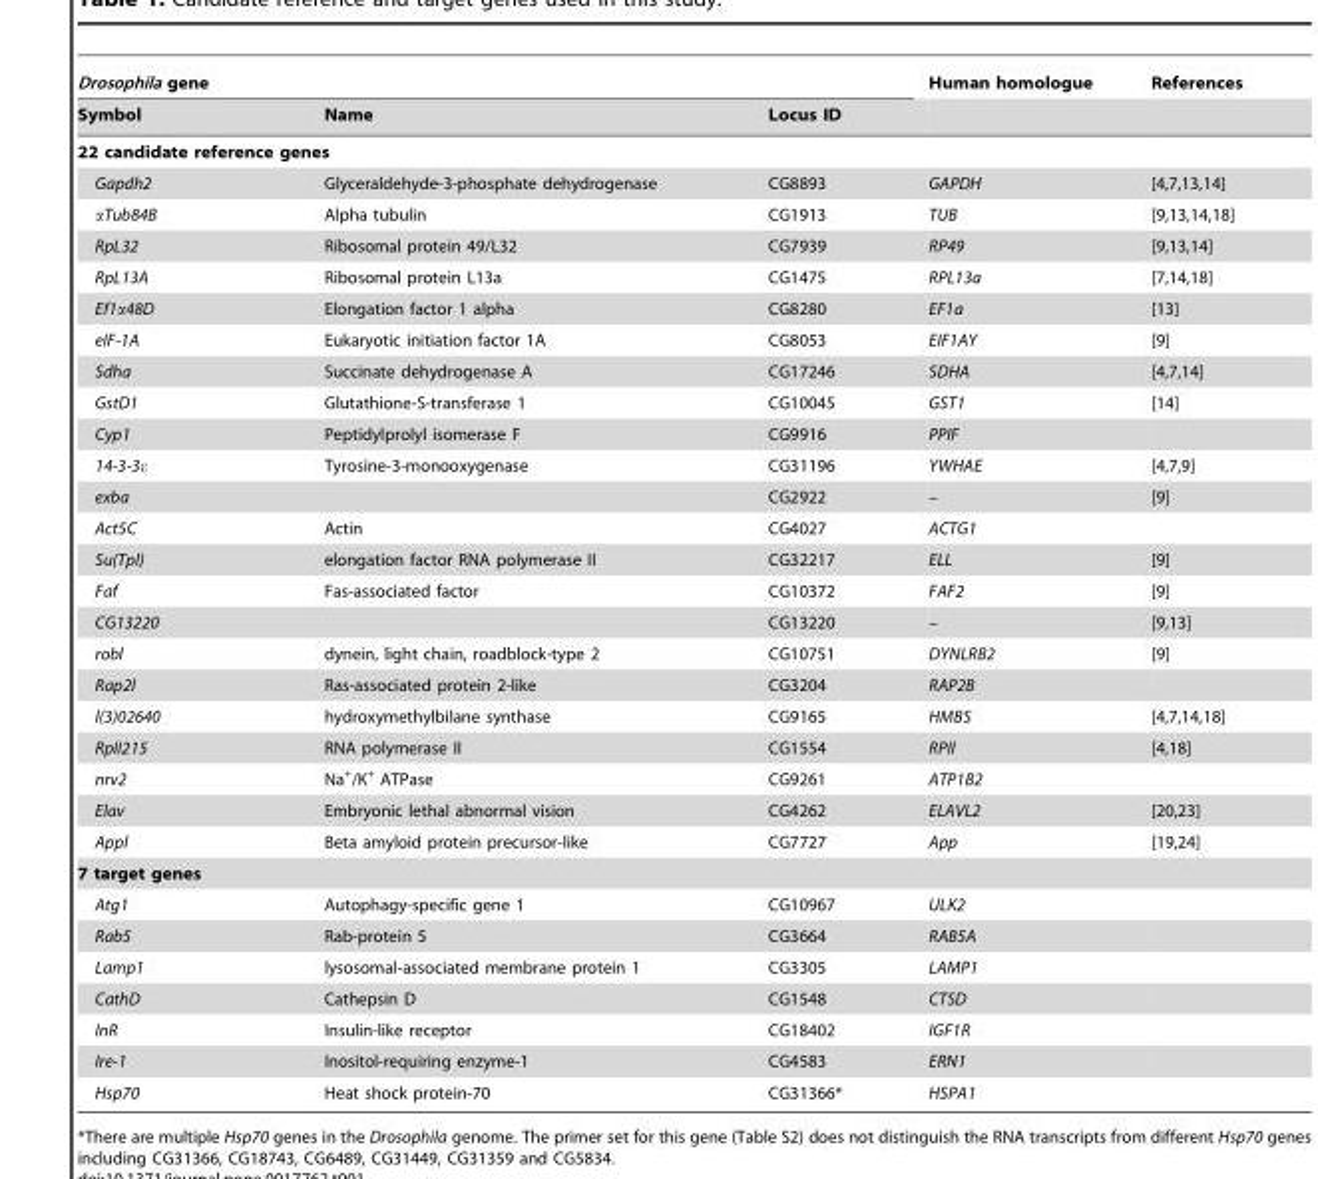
<table><thead><tr><td colspan="3">Drosophila gene</td><td rowspan="2">Human homologue</td><td rowspan="2">References</td></tr><tr><td>Symbol</td><td>Name</td><td>Locus ID</td></tr></thead><tbody><tr><td colspan="5">22 candidate reference genes</td></tr><tr><td>Gapdh2</td><td>Glyceraldehyde-3-phosphate dehydrogenase</td><td>CG8893</td><td>GAPDH</td><td>[4,7,13,14]</td></tr><tr><td>αTub84B</td><td>Alpha tubulin</td><td>CG1913</td><td>TUB</td><td>[9,13,14,18]</td></tr><tr><td>RpL32</td><td>Ribosomal protein 49/L32</td><td>CG7939</td><td>RP49</td><td>[9,13,14]</td></tr><tr><td>RpL13A</td><td>Ribosomal protein L13a</td><td>CG1475</td><td>RPL13a</td><td>[7,14,18]</td></tr><tr><td>Ef1α48D</td><td>Elongation factor 1 alpha</td><td>CG8280</td><td>EF1a</td><td>[13]</td></tr><tr><td>eIF-1A</td><td>Eukaryotic initiation factor 1A</td><td>CG8053</td><td>EIF1AY</td><td>[9]</td></tr><tr><td>Sdha</td><td>Succinate dehydrogenase A</td><td>CG17246</td><td>SDHA</td><td>[4,7,14]</td></tr><tr><td>GstD1</td><td>Glutathione-S-transferase 1</td><td>CG10045</td><td>GST1</td><td>[14]</td></tr><tr><td>Cyp1</td><td>Peptidylprolyl isomerase F</td><td>CG9916</td><td>PPIF</td><td></td></tr><tr><td>14-3-3ε</td><td>Tyrosine-3-monooxygenase</td><td>CG31196</td><td>YWHAE</td><td>[4,7,9]</td></tr><tr><td>exba</td><td></td><td>CG2922</td><td>–</td><td>[9]</td></tr><tr><td>Act5C</td><td>Actin</td><td>CG4027</td><td>ACTG1</td><td></td></tr><tr><td>Su(Tpl)</td><td>elongation factor RNA polymerase II</td><td>CG32217</td><td>ELL</td><td>[9]</td></tr><tr><td>Faf</td><td>Fas-associated factor</td><td>CG10372</td><td>FAF2</td><td>[9]</td></tr><tr><td>CG13220</td><td></td><td>CG13220</td><td>–</td><td>[9,13]</td></tr><tr><td>robl</td><td>dynein, light chain, roadblock-type 2</td><td>CG10751</td><td>DYNLRB2</td><td>[9]</td></tr><tr><td>Rap2l</td><td>Ras-associated protein 2-like</td><td>CG3204</td><td>RAP2B</td><td></td></tr><tr><td>l(3)02640</td><td>hydroxymethylbilane synthase</td><td>CG9165</td><td>HMBS</td><td>[4,7,14,18]</td></tr><tr><td>RpII215</td><td>RNA polymerase II</td><td>CG1554</td><td>RPII</td><td>[4,18]</td></tr><tr><td>nrv2</td><td>Na<sup>+</sup>/K<sup>+</sup> ATPase</td><td>CG9261</td><td>ATP1B2</td><td></td></tr><tr><td>Elav</td><td>Embryonic lethal abnormal vision</td><td>CG4262</td><td>ELAVL2</td><td>[20,23]</td></tr><tr><td>Appl</td><td>Beta amyloid protein precursor-like</td><td>CG7727</td><td>App</td><td>[19,24]</td></tr><tr><td colspan="5">7 target genes</td></tr><tr><td>Atg1</td><td>Autophagy-specific gene 1</td><td>CG10967</td><td>ULK2</td><td></td></tr><tr><td>Rab5</td><td>Rab-protein 5</td><td>CG3664</td><td>RAB5A</td><td></td></tr><tr><td>Lamp1</td><td>lysosomal-associated membrane protein 1</td><td>CG3305</td><td>LAMP1</td><td></td></tr><tr><td>CathD</td><td>Cathepsin D</td><td>CG1548</td><td>CTSD</td><td></td></tr><tr><td>InR</td><td>Insulin-like receptor</td><td>CG18402</td><td>IGF1R</td><td></td></tr><tr><td>Ire-1</td><td>Inositol-requiring enzyme-1</td><td>CG4583</td><td>ERN1</td><td></td></tr><tr><td>Hsp70</td><td>Heat shock protein-70</td><td>CG31366*</td><td>HSPA1</td><td></td></tr></tbody></table>